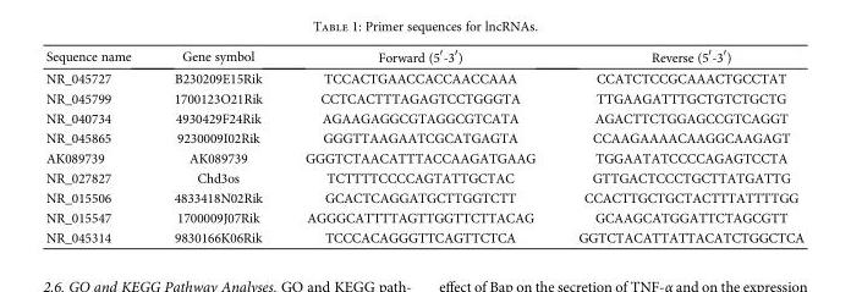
<table><thead><tr><td>Sequence name</td><td>Gene symbol</td><td>Forward (5′-3′)</td><td>Reverse (5′-3′)</td></tr></thead><tbody><tr><td>NR_045727</td><td>B230209E15Rik</td><td>TCCACTGAACCACCAACCAAA</td><td>CCATCTCCGCAAACTGCCTAT</td></tr><tr><td>NR_045799</td><td>1700123O21Rik</td><td>CCTCACTTTAGAGTCCTGGGTA</td><td>TTGAAGATTTGCTGTCTGCTG</td></tr><tr><td>NR_040734</td><td>4930429F24Rik</td><td>AGAAGAGGCGTAGGCGTCATA</td><td>AGACTTCTGGAGCCGTCAGGT</td></tr><tr><td>NR_045865</td><td>9230009I02Rik</td><td>GGGTTAAGAATCGCATGAGTA</td><td>CCAAGAAAACAAGGCAAGAGT</td></tr><tr><td>AK089739</td><td>AK089739</td><td>GGGTCTAACATTTACCAAGATGAAG</td><td>TGGAATATCCCCAGAGTCCTA</td></tr><tr><td>NR_027827</td><td>Chd3os</td><td>TCTTTTCCCCAGTATTGCTAC</td><td>GTTGACTCCCTGCTTATGATTG</td></tr><tr><td>NR_015506</td><td>4833418N02Rik</td><td>GCACTCAGGATGCTTGGTCTT</td><td>CCACTTGCTGCTACTTTATTTTGG</td></tr><tr><td>NR_015547</td><td>1700009J07Rik</td><td>AGGGCATTTTAGTTGGTTCTTACAG</td><td>GCAAGCATGGATTCTAGCGTT</td></tr><tr><td>NR_045314</td><td>9830166K06Rik</td><td>TCCCACAGGGTTCAGTTCTCA</td><td>GGTCTACATTATTACATCTGGCTCA</td></tr></tbody></table>